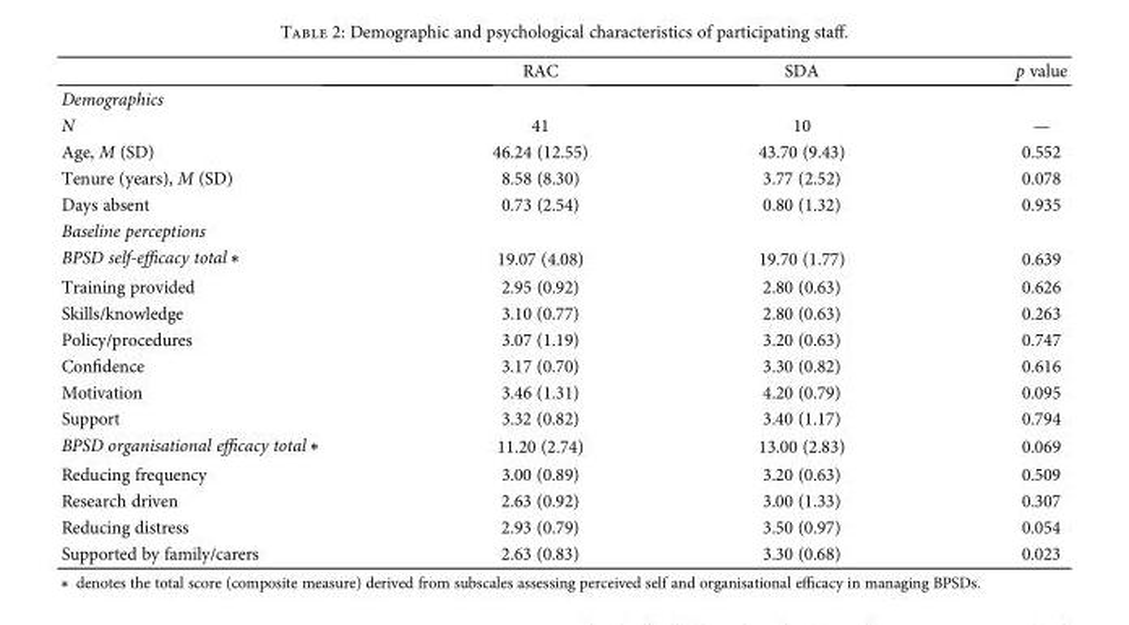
<table><thead><tr><td></td><td>RAC</td><td>SDA</td><td>p value</td></tr></thead><tbody><tr><td colspan="4">Demographics</td></tr><tr><td>N</td><td>41</td><td>10</td><td>—</td></tr><tr><td>Age, M (SD)</td><td>46.24 (12.55)</td><td>43.70 (9.43)</td><td>0.552</td></tr><tr><td>Tenure (years), M (SD)</td><td>8.58 (8.30)</td><td>3.77 (2.52)</td><td>0.078</td></tr><tr><td>Days absent</td><td>0.73 (2.54)</td><td>0.80 (1.32)</td><td>0.935</td></tr><tr><td colspan="4">Baseline perceptions</td></tr><tr><td>BPSD self-efficacy total ∗</td><td>19.07 (4.08)</td><td>19.70 (1.77)</td><td>0.639</td></tr><tr><td>Training provided</td><td>2.95 (0.92)</td><td>2.80 (0.63)</td><td>0.626</td></tr><tr><td>Skills/knowledge</td><td>3.10 (0.77)</td><td>2.80 (0.63)</td><td>0.263</td></tr><tr><td>Policy/procedures</td><td>3.07 (1.19)</td><td>3.20 (0.63)</td><td>0.747</td></tr><tr><td>Confidence</td><td>3.17 (0.70)</td><td>3.30 (0.82)</td><td>0.616</td></tr><tr><td>Motivation</td><td>3.46 (1.31)</td><td>4.20 (0.79)</td><td>0.095</td></tr><tr><td>Support</td><td>3.32 (0.82)</td><td>3.40 (1.17)</td><td>0.794</td></tr><tr><td>BPSD organisational efficacy total ∗</td><td>11.20 (2.74)</td><td>13.00 (2.83)</td><td>0.069</td></tr><tr><td>Reducing frequency</td><td>3.00 (0.89)</td><td>3.20 (0.63)</td><td>0.509</td></tr><tr><td>Research driven</td><td>2.63 (0.92)</td><td>3.00 (1.33)</td><td>0.307</td></tr><tr><td>Reducing distress</td><td>2.93 (0.79)</td><td>3.50 (0.97)</td><td>0.054</td></tr><tr><td>Supported by family/carers</td><td>2.63 (0.83)</td><td>3.30 (0.68)</td><td>0.023</td></tr></tbody></table>